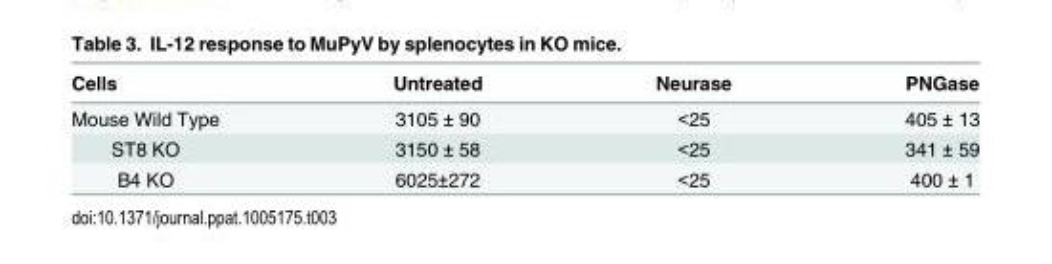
<table><thead><tr><td>Cells</td><td>Untreated</td><td>Neurase</td><td>PNGase</td></tr></thead><tbody><tr><td>Mouse Wild Type</td><td>3105 ± 90</td><td>&lt;25</td><td>405 ± 13</td></tr><tr><td>ST8 KO</td><td>3150 ± 58</td><td>&lt;25</td><td>341 ± 59</td></tr><tr><td>B4 KO</td><td>6025±272</td><td>&lt;25</td><td>400 ± 1</td></tr></tbody></table>